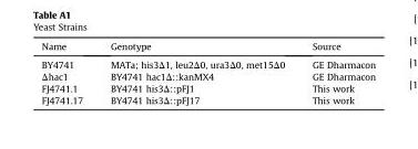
<table><thead><tr><td>Name</td><td>Genotype</td><td>Source</td></tr></thead><tbody><tr><td>BY4741</td><td>MATa; his3Δ1, leu2Δ0, ura3Δ0, met15Δ0</td><td>GE Dharmacon</td></tr><tr><td>Δhac1</td><td>BY4741 hac1Δ::kanMX4</td><td>GE Dharmacon</td></tr><tr><td>FJ4741.1</td><td>BY4741 his3Δ::pFJ1</td><td>This work</td></tr><tr><td>FJ4741.17</td><td>BY4741 his3Δ::pFJ17</td><td>This work</td></tr></tbody></table>